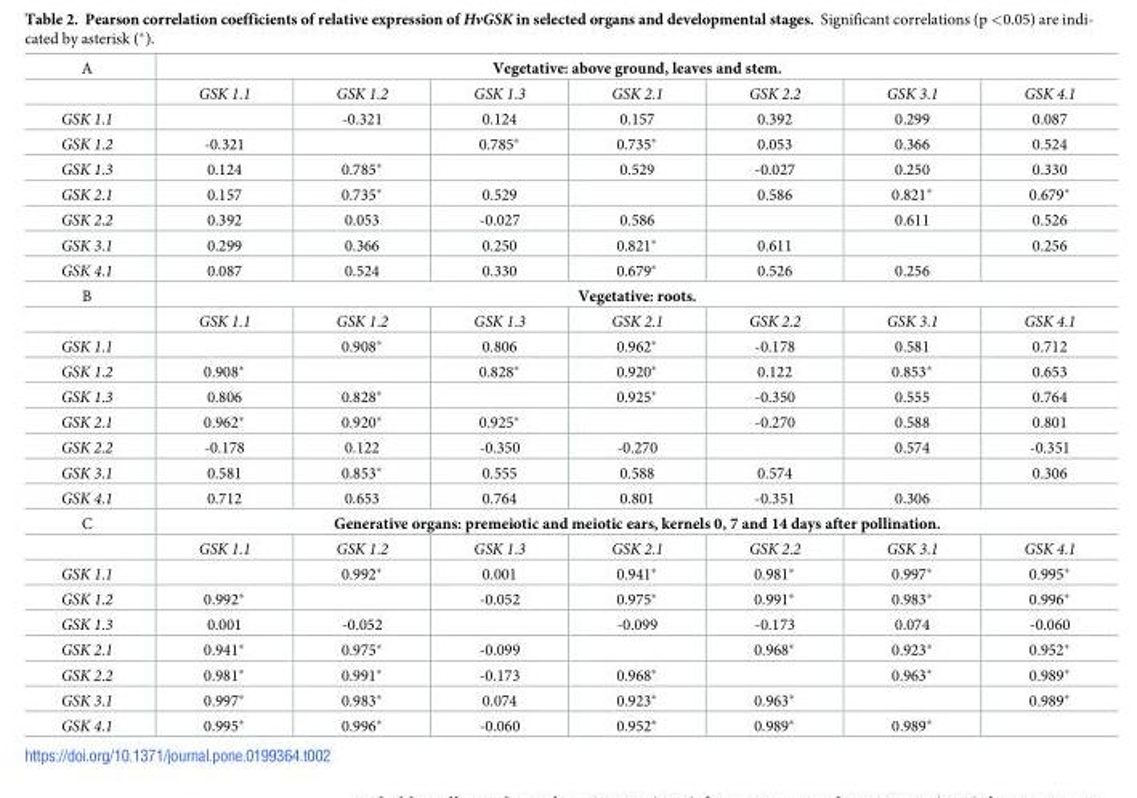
<table><tbody><tr><td rowspan="2">A</td><td colspan="7">Vegetative: above ground, leaves and stem.</td></tr><tr><td>GSK 1.1</td><td>GSK 1.2</td><td>GSK 1.3</td><td>GSK 2.1</td><td>GSK 2.2</td><td>GSK 3.1</td><td>GSK 4.1</td></tr><tr><td>GSK 1.1</td><td></td><td>-0.321</td><td>0.124</td><td>0.157</td><td>0.392</td><td>0.299</td><td>0.087</td></tr><tr><td>GSK 1.2</td><td>-0.321</td><td></td><td>0.785*</td><td>0.735*</td><td>0.053</td><td>0.366</td><td>0.524</td></tr><tr><td>GSK 1.3</td><td>0.124</td><td>0.785*</td><td></td><td>0.529</td><td>-0.027</td><td>0.250</td><td>0.330</td></tr><tr><td>GSK 2.1</td><td>0.157</td><td>0.735*</td><td>0.529</td><td></td><td>0.586</td><td>0.821*</td><td>0.679*</td></tr><tr><td>GSK 2.2</td><td>0.392</td><td>0.053</td><td>-0.027</td><td>0.586</td><td></td><td>0.611</td><td>0.526</td></tr><tr><td>GSK 3.1</td><td>0.299</td><td>0.366</td><td>0.250</td><td>0.821*</td><td>0.611</td><td></td><td>0.256</td></tr><tr><td>GSK 4.1</td><td>0.087</td><td>0.524</td><td>0.330</td><td>0.679*</td><td>0.526</td><td>0.256</td><td></td></tr><tr><td rowspan="2">B</td><td colspan="7">Vegetative: roots.</td></tr><tr><td>GSK 1.1</td><td>GSK 1.2</td><td>GSK 1.3</td><td>GSK 2.1</td><td>GSK 2.2</td><td>GSK 3.1</td><td>GSK 4.1</td></tr><tr><td>GSK 1.1</td><td></td><td>0.908*</td><td>0.806</td><td>0.962*</td><td>-0.178</td><td>0.581</td><td>0.712</td></tr><tr><td>GSK 1.2</td><td>0.908*</td><td></td><td>0.828*</td><td>0.920*</td><td>0.122</td><td>0.853*</td><td>0.653</td></tr><tr><td>GSK 1.3</td><td>0.806</td><td>0.828*</td><td></td><td>0.925*</td><td>-0.350</td><td>0.555</td><td>0.764</td></tr><tr><td>GSK 2.1</td><td>0.962*</td><td>0.920*</td><td>0.925*</td><td></td><td>-0.270</td><td>0.588</td><td>0.801</td></tr><tr><td>GSK 2.2</td><td>-0.178</td><td>0.122</td><td>-0.350</td><td>-0.270</td><td></td><td>0.574</td><td>-0.351</td></tr><tr><td>GSK 3.1</td><td>0.581</td><td>0.853*</td><td>0.555</td><td>0.588</td><td>0.574</td><td></td><td>0.306</td></tr><tr><td>GSK 4.1</td><td>0.712</td><td>0.653</td><td>0.764</td><td>0.801</td><td>-0.351</td><td>0.306</td><td></td></tr><tr><td rowspan="2">C</td><td colspan="7">Generative organs: premeiotic and meiotic ears, kernels 0, 7 and 14 days after pollination.</td></tr><tr><td>GSK 1.1</td><td>GSK 1.2</td><td>GSK 1.3</td><td>GSK 2.1</td><td>GSK 2.2</td><td>GSK 3.1</td><td>GSK 4.1</td></tr><tr><td>GSK 1.1</td><td></td><td>0.992*</td><td>0.001</td><td>0.941*</td><td>0.981*</td><td>0.997*</td><td>0.995*</td></tr><tr><td>GSK 1.2</td><td>0.992*</td><td></td><td>-0.052</td><td>0.975*</td><td>0.991*</td><td>0.983*</td><td>0.996*</td></tr><tr><td>GSK 1.3</td><td>0.001</td><td>-0.052</td><td></td><td>-0.099</td><td>-0.173</td><td>0.074</td><td>-0.060</td></tr><tr><td>GSK 2.1</td><td>0.941*</td><td>0.975*</td><td>-0.099</td><td></td><td>0.968*</td><td>0.923*</td><td>0.952*</td></tr><tr><td>GSK 2.2</td><td>0.981*</td><td>0.991*</td><td>-0.173</td><td>0.968*</td><td></td><td>0.963*</td><td>0.989*</td></tr><tr><td>GSK 3.1</td><td>0.997*</td><td>0.983*</td><td>0.074</td><td>0.923*</td><td>0.963*</td><td></td><td>0.989*</td></tr><tr><td>GSK 4.1</td><td>0.995*</td><td>0.996*</td><td>-0.060</td><td>0.952*</td><td>0.989*</td><td>0.989*</td><td></td></tr></tbody></table>